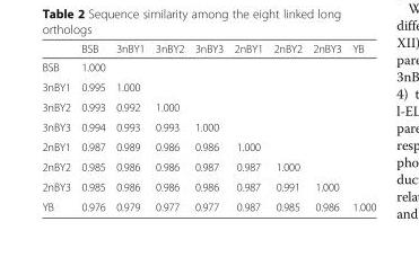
<table><thead><tr><td></td><td>BSB</td><td>3nBY1</td><td>3nBY2</td><td>3nBY3</td><td>2nBY1</td><td>2nBY2</td><td>2nBY3</td><td>YB</td></tr></thead><tbody><tr><td>BSB</td><td>1.000</td><td></td><td></td><td></td><td></td><td></td><td></td><td></td></tr><tr><td>3nBY1</td><td>0.995</td><td>1.000</td><td></td><td></td><td></td><td></td><td></td><td></td></tr><tr><td>3nBY2</td><td>0.993</td><td>0.992</td><td>1.000</td><td></td><td></td><td></td><td></td><td></td></tr><tr><td>3nBY3</td><td>0.994</td><td>0.993</td><td>0.993</td><td>1.000</td><td></td><td></td><td></td><td></td></tr><tr><td>2nBY1</td><td>0.987</td><td>0.989</td><td>0.986</td><td>0.986</td><td>1.000</td><td></td><td></td><td></td></tr><tr><td>2nBY2</td><td>0.985</td><td>0.986</td><td>0.986</td><td>0.987</td><td>0.987</td><td>1.000</td><td></td><td></td></tr><tr><td>2nBY3</td><td>0.985</td><td>0.986</td><td>0.986</td><td>0.986</td><td>0.987</td><td>0.991</td><td>1.000</td><td></td></tr><tr><td>YB</td><td>0.976</td><td>0.979</td><td>0.977</td><td>0.977</td><td>0.987</td><td>0.985</td><td>0.986</td><td>1.000</td></tr></tbody></table>